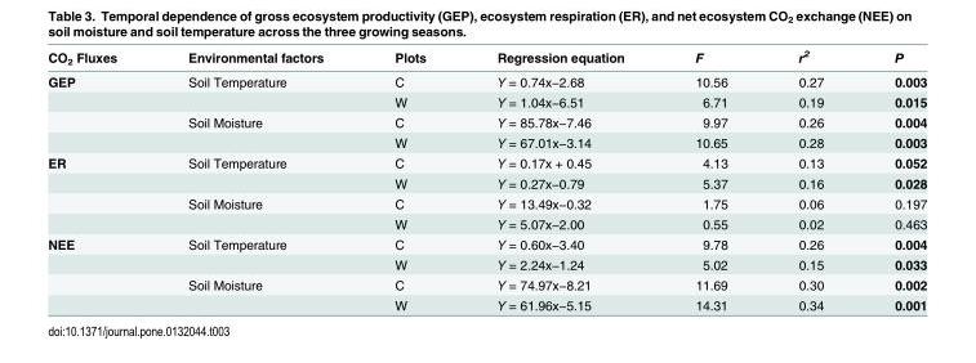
<table><thead><tr><td>CO<sub>2</sub> Fluxes</td><td>Environmental factors</td><td>Plots</td><td>Regression equation</td><td>F</td><td>r<sup>2</sup></td><td>P</td></tr></thead><tbody><tr><td rowspan="4">GEP</td><td>Soil Temperature</td><td>C</td><td>Y = 0.74x−2.68</td><td>10.56</td><td>0.27</td><td>0.003</td></tr><tr><td></td><td>W</td><td>Y = 1.04x−6.51</td><td>6.71</td><td>0.19</td><td>0.015</td></tr><tr><td>Soil Moisture</td><td>C</td><td>Y = 85.78x−7.46</td><td>9.97</td><td>0.26</td><td>0.004</td></tr><tr><td></td><td>W</td><td>Y = 67.01x−3.14</td><td>10.65</td><td>0.28</td><td>0.003</td></tr><tr><td rowspan="4">ER</td><td>Soil Temperature</td><td>C</td><td>Y = 0.17x + 0.45</td><td>4.13</td><td>0.13</td><td>0.052</td></tr><tr><td></td><td>W</td><td>Y = 0.27x−0.79</td><td>5.37</td><td>0.16</td><td>0.028</td></tr><tr><td>Soil Moisture</td><td>C</td><td>Y = 13.49x−0.32</td><td>1.75</td><td>0.06</td><td>0.197</td></tr><tr><td></td><td>W</td><td>Y = 5.07x−2.00</td><td>0.55</td><td>0.02</td><td>0.463</td></tr><tr><td rowspan="4">NEE</td><td>Soil Temperature</td><td>C</td><td>Y = 0.60x−3.40</td><td>9.78</td><td>0.26</td><td>0.004</td></tr><tr><td></td><td>W</td><td>Y = 2.24x−1.24</td><td>5.02</td><td>0.15</td><td>0.033</td></tr><tr><td>Soil Moisture</td><td>C</td><td>Y = 74.97x−8.21</td><td>11.69</td><td>0.30</td><td>0.002</td></tr><tr><td></td><td>W</td><td>Y = 61.96x−5.15</td><td>14.31</td><td>0.34</td><td>0.001</td></tr></tbody></table>